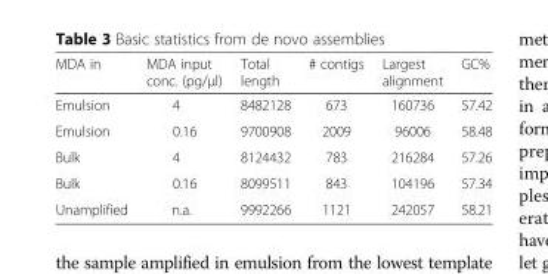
<table><thead><tr><td>MDA in</td><td>MDA input conc. (pg/μl)</td><td>Total length</td><td># contigs</td><td>Largest alignment</td><td>GC%</td></tr></thead><tbody><tr><td>Emulsion</td><td>4</td><td>8482128</td><td>673</td><td>160736</td><td>57.42</td></tr><tr><td>Emulsion</td><td>0.16</td><td>9700908</td><td>2009</td><td>96006</td><td>58.48</td></tr><tr><td>Bulk</td><td>4</td><td>8124432</td><td>783</td><td>216284</td><td>57.26</td></tr><tr><td>Bulk</td><td>0.16</td><td>8099511</td><td>843</td><td>104196</td><td>57.34</td></tr><tr><td>Unamplified</td><td>n.a.</td><td>9992266</td><td>1121</td><td>242057</td><td>58.21</td></tr></tbody></table>